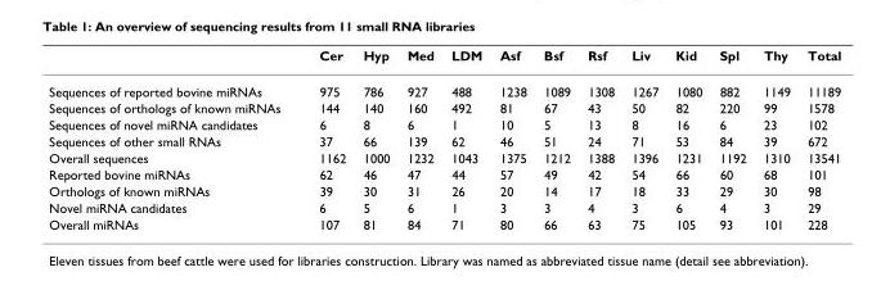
<table><thead><tr><td></td><td>Cer</td><td>Hyp</td><td>Med</td><td>LDM</td><td>Asf</td><td>Bsf</td><td>Rsf</td><td>Liv</td><td>Kid</td><td>Spl</td><td>Thy</td><td>Total</td></tr></thead><tbody><tr><td>Sequences of reported bovine miRNAs</td><td>975</td><td>786</td><td>927</td><td>488</td><td>1238</td><td>1089</td><td>1308</td><td>1267</td><td>1080</td><td>882</td><td>1149</td><td>11189</td></tr><tr><td>Sequences of orthologs of known miRNAs</td><td>144</td><td>140</td><td>160</td><td>492</td><td>81</td><td>67</td><td>43</td><td>50</td><td>82</td><td>220</td><td>99</td><td>1578</td></tr><tr><td>Sequences of novel miRNA candidates</td><td>6</td><td>8</td><td>6</td><td>1</td><td>10</td><td>5</td><td>13</td><td>8</td><td>16</td><td>6</td><td>23</td><td>102</td></tr><tr><td>Sequences of other small RNAs</td><td>37</td><td>66</td><td>139</td><td>62</td><td>46</td><td>51</td><td>24</td><td>71</td><td>53</td><td>84</td><td>39</td><td>672</td></tr><tr><td>Overall sequences</td><td>1162</td><td>1000</td><td>1232</td><td>1043</td><td>1375</td><td>1212</td><td>1388</td><td>1396</td><td>1231</td><td>1192</td><td>1310</td><td>13541</td></tr><tr><td>Reported bovine miRNAs</td><td>62</td><td>46</td><td>47</td><td>44</td><td>57</td><td>49</td><td>42</td><td>54</td><td>66</td><td>60</td><td>68</td><td>101</td></tr><tr><td>Orthologs of known miRNAs</td><td>39</td><td>30</td><td>31</td><td>26</td><td>20</td><td>14</td><td>17</td><td>18</td><td>33</td><td>29</td><td>30</td><td>98</td></tr><tr><td>Novel miRNA candidates</td><td>6</td><td>5</td><td>6</td><td>1</td><td>3</td><td>3</td><td>4</td><td>3</td><td>6</td><td>4</td><td>3</td><td>29</td></tr><tr><td>Overall miRNAs</td><td>107</td><td>81</td><td>84</td><td>71</td><td>80</td><td>66</td><td>63</td><td>75</td><td>105</td><td>93</td><td>101</td><td>228</td></tr></tbody></table>